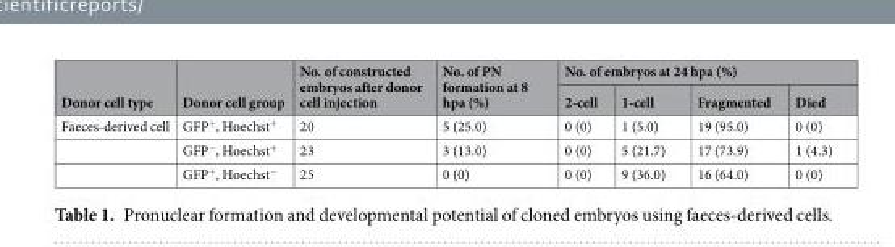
<table><thead><tr><td rowspan="2">Donor cell type</td><td rowspan="2">Donor cell group</td><td rowspan="2">No. of constructed embryos after donor cell injection</td><td rowspan="2">No. of PN formation at 8 hpa (%)</td><td colspan="4">No. of embryos at 24 hpa (%)</td></tr><tr><td>2-cell</td><td>1-cell</td><td>Fragmented</td><td>Died</td></tr></thead><tbody><tr><td rowspan="3">Faeces-derived cell</td><td>GFP<sup>+</sup>, Hoechst<sup>+</sup></td><td>20</td><td>5 (25.0)</td><td>0 (0)</td><td>1 (5.0)</td><td>19 (95.0)</td><td>0 (0)</td></tr><tr><td>GFP<sup>−</sup>, Hoechst<sup>+</sup></td><td>23</td><td>3 (13.0)</td><td>0 (0)</td><td>5 (21.7)</td><td>17 (73.9)</td><td>1 (4.3)</td></tr><tr><td>GFP<sup>+</sup>, Hoechst<sup>−</sup></td><td>25</td><td>0 (0)</td><td>0 (0)</td><td>9 (36.0)</td><td>16 (64.0)</td><td>0 (0)</td></tr></tbody></table>